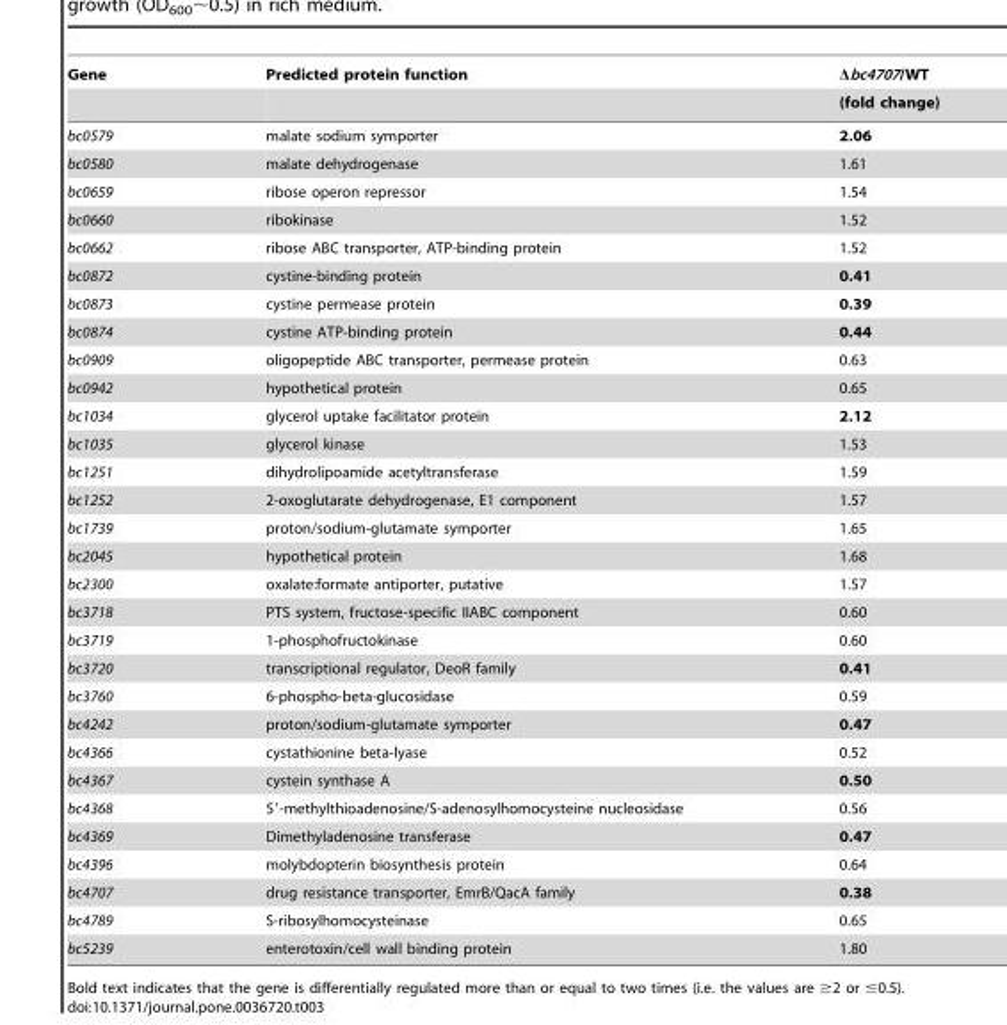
<table><thead><tr><td rowspan="2">Gene</td><td rowspan="2">Predicted protein function</td><td rowspan="2">Δbc4707/WT (fold change)</td></tr><tr></tr></thead><tbody><tr><td>bc0579</td><td>malate sodium symporter</td><td>2.06</td></tr><tr><td>bc0580</td><td>malate dehydrogenase</td><td>1.61</td></tr><tr><td>bc0659</td><td>ribose operon repressor</td><td>1.54</td></tr><tr><td>bc0660</td><td>ribokinase</td><td>1.52</td></tr><tr><td>bc0662</td><td>ribose ABC transporter, ATP-binding protein</td><td>1.52</td></tr><tr><td>bc0872</td><td>cystine-binding protein</td><td>0.41</td></tr><tr><td>bc0873</td><td>cystine permease protein</td><td>0.39</td></tr><tr><td>bc0874</td><td>cystine ATP-binding protein</td><td>0.44</td></tr><tr><td>bc0909</td><td>oligopeptide ABC transporter, permease protein</td><td>0.63</td></tr><tr><td>bc0942</td><td>hypothetical protein</td><td>0.65</td></tr><tr><td>bc1034</td><td>glycerol uptake facilitator protein</td><td>2.12</td></tr><tr><td>bc1035</td><td>glycerol kinase</td><td>1.53</td></tr><tr><td>bc1251</td><td>dihydrolipoamide acetyltransferase</td><td>1.59</td></tr><tr><td>bc1252</td><td>2-oxoglutarate dehydrogenase, E1 component</td><td>1.57</td></tr><tr><td>bc1739</td><td>proton/sodium-glutamate symporter</td><td>1.65</td></tr><tr><td>bc2045</td><td>hypothetical protein</td><td>1.68</td></tr><tr><td>bc2300</td><td>oxalate:formate antiporter, putative</td><td>1.57</td></tr><tr><td>bc3718</td><td>PTS system, fructose-specific IIABC component</td><td>0.60</td></tr><tr><td>bc3719</td><td>1-phosphofructokinase</td><td>0.60</td></tr><tr><td>bc3720</td><td>transcriptional regulator, DeoR family</td><td>0.41</td></tr><tr><td>bc3760</td><td>6-phospho-beta-glucosidase</td><td>0.59</td></tr><tr><td>bc4242</td><td>proton/sodium-glutamate symporter</td><td>0.47</td></tr><tr><td>bc4366</td><td>cystathionine beta-lyase</td><td>0.52</td></tr><tr><td>bc4367</td><td>cystein synthase A</td><td>0.50</td></tr><tr><td>bc4368</td><td>5′-methylthioadenosine/S-adenosylhomocysteine nucleosidase</td><td>0.56</td></tr><tr><td>bc4369</td><td>Dimethyladenosine transferase</td><td>0.47</td></tr><tr><td>bc4396</td><td>molybdopterin biosynthesis protein</td><td>0.64</td></tr><tr><td>bc4707</td><td>drug resistance transporter, EmrB/QacA family</td><td>0.38</td></tr><tr><td>bc4789</td><td>S-ribosylhomocysteinase</td><td>0.65</td></tr><tr><td>bc5239</td><td>enterotoxin/cell wall binding protein</td><td>1.80</td></tr></tbody></table>